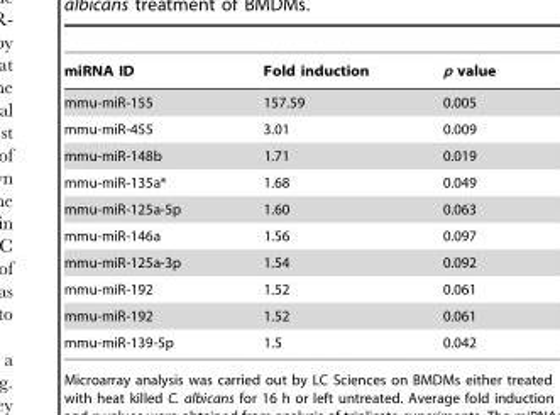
<table><thead><tr><td>miRNA ID</td><td>Fold induction</td><td>p value</td></tr></thead><tbody><tr><td>mmu-miR-155</td><td>157.59</td><td>0.005</td></tr><tr><td>mmu-miR-455</td><td>3.01</td><td>0.009</td></tr><tr><td>mmu-miR-148b</td><td>1.71</td><td>0.019</td></tr><tr><td>mmu-miR-135a*</td><td>1.68</td><td>0.049</td></tr><tr><td>mmu-miR-125a-5p</td><td>1.60</td><td>0.063</td></tr><tr><td>mmu-miR-146a</td><td>1.56</td><td>0.097</td></tr><tr><td>mmu-miR-125a-3p</td><td>1.54</td><td>0.092</td></tr><tr><td>mmu-miR-192</td><td>1.52</td><td>0.061</td></tr><tr><td>mmu-miR-192</td><td>1.52</td><td>0.061</td></tr><tr><td>mmu-miR-139-5p</td><td>1.5</td><td>0.042</td></tr></tbody></table>